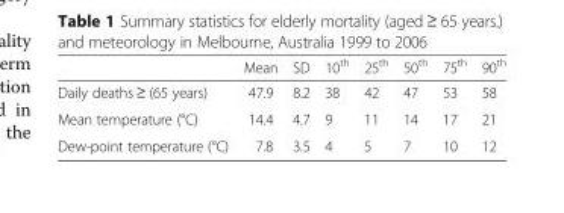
<table><thead><tr><td></td><td>Mean</td><td>SD</td><td>10<sup>th</sup></td><td>25<sup>th</sup></td><td>50<sup>th</sup></td><td>75<sup>th</sup></td><td>90<sup>th</sup></td></tr></thead><tbody><tr><td>Daily deaths ≥ (65 years)</td><td>47.9</td><td>8.2</td><td>38</td><td>42</td><td>47</td><td>53</td><td>58</td></tr><tr><td>Mean temperature (°C)</td><td>14.4</td><td>4.7</td><td>9</td><td>11</td><td>14</td><td>17</td><td>21</td></tr><tr><td>Dew-point temperature (°C)</td><td>7.8</td><td>3.5</td><td>4</td><td>5</td><td>7</td><td>10</td><td>12</td></tr></tbody></table>